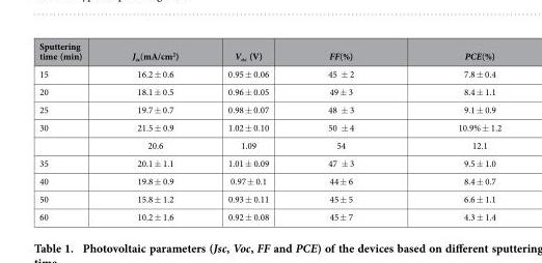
<table><thead><tr><td>Sputtering time (min)</td><td>J<sub>sc</sub>(mA/cm<sup>2</sup>)</td><td>V<sub>oc</sub> (V)</td><td>FF(%)</td><td>PCE(%)</td></tr></thead><tbody><tr><td>15</td><td>16.2 ± 0.6</td><td>0.95 ± 0.06</td><td>45 ± 2</td><td>7.8 ± 0.4</td></tr><tr><td>20</td><td>18.1 ± 0.5</td><td>0.96 ± 0.05</td><td>49 ± 3</td><td>8.4 ± 1.1</td></tr><tr><td>25</td><td>19.7 ± 0.7</td><td>0.98 ± 0.07</td><td>48 ± 3</td><td>9.1 ± 0.9</td></tr><tr><td rowspan="2">30</td><td>21.5 ± 0.9</td><td>1.02 ± 0.10</td><td>50 ± 4</td><td>10.9% ± 1.2</td></tr><tr><td>20.6</td><td>1.09</td><td>54</td><td>12.1</td></tr><tr><td>35</td><td>20.1 ± 1.1</td><td>1.01 ± 0.09</td><td>47 ± 3</td><td>9.5 ± 1.0</td></tr><tr><td>40</td><td>19.8 ± 0.9</td><td>0.97 ± 0.1</td><td>44 ± 6</td><td>8.4 ± 0.7</td></tr><tr><td>50</td><td>15.8 ± 1.2</td><td>0.93 ± 0.11</td><td>45 ± 5</td><td>6.6 ± 1.1</td></tr><tr><td>60</td><td>10.2 ± 1.6</td><td>0.92 ± 0.08</td><td>45 ± 7</td><td>4.3 ± 1.4</td></tr></tbody></table>